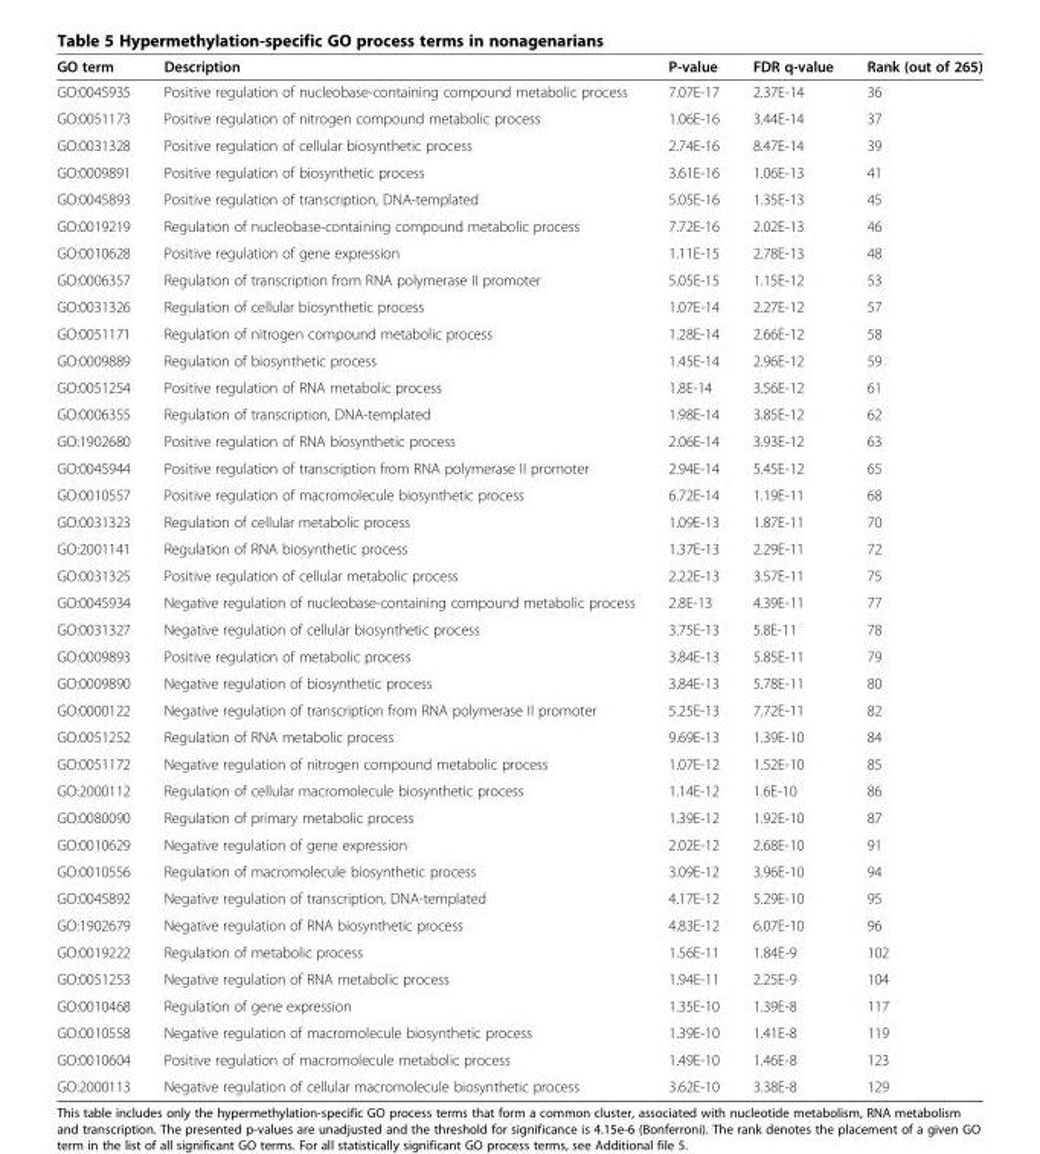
<table><thead><tr><td>GO term</td><td>Description</td><td>P-value</td><td>FDR q-value</td><td>Rank (out of 265)</td></tr></thead><tbody><tr><td>GO:0045935</td><td>Positive regulation of nucleobase-containing compound metabolic process</td><td>7.07E-17</td><td>2.37E-14</td><td>36</td></tr><tr><td>GO:0051173</td><td>Positive regulation of nitrogen compound metabolic process</td><td>1.06E-16</td><td>3.44E-14</td><td>37</td></tr><tr><td>GO:0031328</td><td>Positive regulation of cellular biosynthetic process</td><td>2.74E-16</td><td>8.47E-14</td><td>39</td></tr><tr><td>GO:0009891</td><td>Positive regulation of biosynthetic process</td><td>3.61E-16</td><td>1.06E-13</td><td>41</td></tr><tr><td>GO:0045893</td><td>Positive regulation of transcription, DNA-templated</td><td>5.05E-16</td><td>1.35E-13</td><td>45</td></tr><tr><td>GO:0019219</td><td>Regulation of nucleobase-containing compound metabolic process</td><td>7.72E-16</td><td>2.02E-13</td><td>46</td></tr><tr><td>GO:0010628</td><td>Positive regulation of gene expression</td><td>1.11E-15</td><td>2.78E-13</td><td>48</td></tr><tr><td>GO:0006357</td><td>Regulation of transcription from RNA polymerase II promoter</td><td>5.05E-15</td><td>1.15E-12</td><td>53</td></tr><tr><td>GO:0031326</td><td>Regulation of cellular biosynthetic process</td><td>1.07E-14</td><td>2.27E-12</td><td>57</td></tr><tr><td>GO:0051171</td><td>Regulation of nitrogen compound metabolic process</td><td>1.28E-14</td><td>2.66E-12</td><td>58</td></tr><tr><td>GO:0009889</td><td>Regulation of biosynthetic process</td><td>1.45E-14</td><td>2.96E-12</td><td>59</td></tr><tr><td>GO:0051254</td><td>Positive regulation of RNA metabolic process</td><td>1.8E-14</td><td>3.56E-12</td><td>61</td></tr><tr><td>GO:0006355</td><td>Regulation of transcription, DNA-templated</td><td>1.98E-14</td><td>3.85E-12</td><td>62</td></tr><tr><td>GO:1902680</td><td>Positive regulation of RNA biosynthetic process</td><td>2.06E-14</td><td>3.93E-12</td><td>63</td></tr><tr><td>GO:0045944</td><td>Positive regulation of transcription from RNA polymerase II promoter</td><td>2.94E-14</td><td>5.45E-12</td><td>65</td></tr><tr><td>GO:0010557</td><td>Positive regulation of macromolecule biosynthetic process</td><td>6.72E-14</td><td>1.19E-11</td><td>68</td></tr><tr><td>GO:0031323</td><td>Regulation of cellular metabolic process</td><td>1.09E-13</td><td>1.87E-11</td><td>70</td></tr><tr><td>GO:2001141</td><td>Regulation of RNA biosynthetic process</td><td>1.37E-13</td><td>2.29E-11</td><td>72</td></tr><tr><td>GO:0031325</td><td>Positive regulation of cellular metabolic process</td><td>2.22E-13</td><td>3.57E-11</td><td>75</td></tr><tr><td>GO:0045934</td><td>Negative regulation of nucleobase-containing compound metabolic process</td><td>2.8E-13</td><td>4.39E-11</td><td>77</td></tr><tr><td>GO:0031327</td><td>Negative regulation of cellular biosynthetic process</td><td>3.75E-13</td><td>5.8E-11</td><td>78</td></tr><tr><td>GO:0009893</td><td>Positive regulation of metabolic process</td><td>3.84E-13</td><td>5.85E-11</td><td>79</td></tr><tr><td>GO:0009890</td><td>Negative regulation of biosynthetic process</td><td>3.84E-13</td><td>5.78E-11</td><td>80</td></tr><tr><td>GO:0000122</td><td>Negative regulation of transcription from RNA polymerase II promoter</td><td>5.25E-13</td><td>7.72E-11</td><td>82</td></tr><tr><td>GO:0051252</td><td>Regulation of RNA metabolic process</td><td>9.69E-13</td><td>1.39E-10</td><td>84</td></tr><tr><td>GO:0051172</td><td>Negative regulation of nitrogen compound metabolic process</td><td>1.07E-12</td><td>1.52E-10</td><td>85</td></tr><tr><td>GO:2000112</td><td>Regulation of cellular macromolecule biosynthetic process</td><td>1.14E-12</td><td>1.6E-10</td><td>86</td></tr><tr><td>GO:0080090</td><td>Regulation of primary metabolic process</td><td>1.39E-12</td><td>1.92E-10</td><td>87</td></tr><tr><td>GO:0010629</td><td>Negative regulation of gene expression</td><td>2.02E-12</td><td>2.68E-10</td><td>91</td></tr><tr><td>GO:0010556</td><td>Regulation of macromolecule biosynthetic process</td><td>3.09E-12</td><td>3.96E-10</td><td>94</td></tr><tr><td>GO:0045892</td><td>Negative regulation of transcription, DNA-templated</td><td>4.17E-12</td><td>5.29E-10</td><td>95</td></tr><tr><td>GO:1902679</td><td>Negative regulation of RNA biosynthetic process</td><td>4.83E-12</td><td>6.07E-10</td><td>96</td></tr><tr><td>GO:0019222</td><td>Regulation of metabolic process</td><td>1.56E-11</td><td>1.84E-9</td><td>102</td></tr><tr><td>GO:0051253</td><td>Negative regulation of RNA metabolic process</td><td>1.94E-11</td><td>2.25E-9</td><td>104</td></tr><tr><td>GO:0010468</td><td>Regulation of gene expression</td><td>1.35E-10</td><td>1.39E-8</td><td>117</td></tr><tr><td>GO:0010558</td><td>Negative regulation of macromolecule biosynthetic process</td><td>1.39E-10</td><td>1.41E-8</td><td>119</td></tr><tr><td>GO:0010604</td><td>Positive regulation of macromolecule metabolic process</td><td>1.49E-10</td><td>1.46E-8</td><td>123</td></tr><tr><td>GO:2000113</td><td>Negative regulation of cellular macromolecule biosynthetic process</td><td>3.62E-10</td><td>3.38E-8</td><td>129</td></tr></tbody></table>